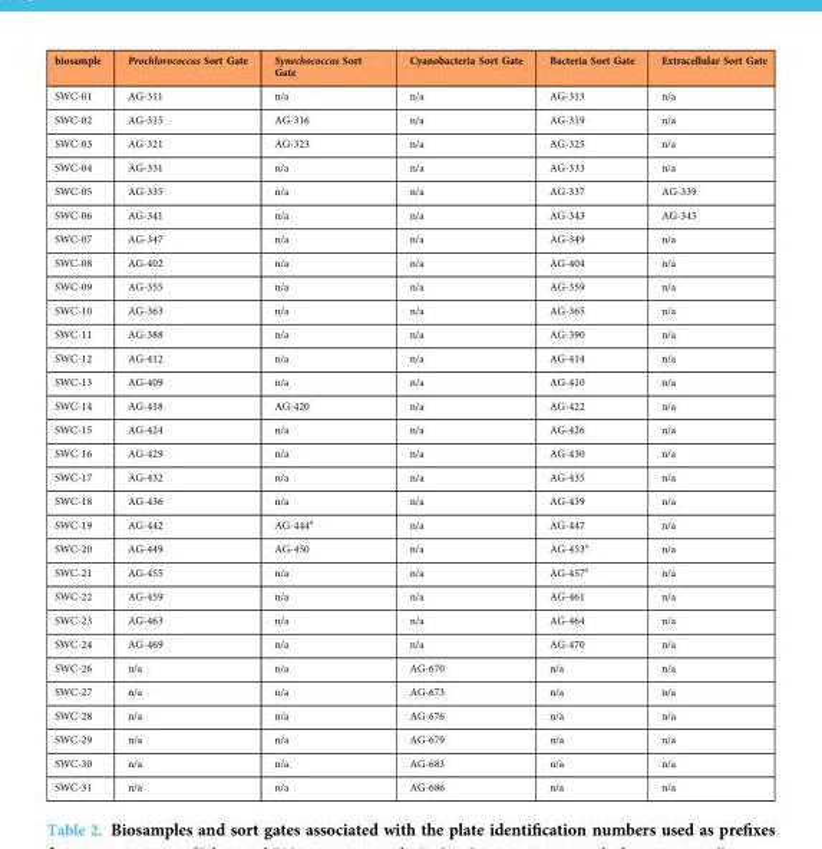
<table><thead><tr><td>biosample</td><td>Prochlorococcus Sort Gate</td><td>Synechococcus Sort Gate</td><td>Cyanobacteria Sort Gate</td><td>Bacteria Sort Gate</td><td>Extracellular Sort Gate</td></tr></thead><tbody><tr><td>SWC-01</td><td>AG-311</td><td>n/a</td><td>n/a</td><td>AG-313</td><td>n/a</td></tr><tr><td>SWC-02</td><td>AG-315</td><td>AG-316</td><td>n/a</td><td>AG-319</td><td>n/a</td></tr><tr><td>SWC-03</td><td>AG-321</td><td>AG-323</td><td>n/a</td><td>AG-325</td><td>n/a</td></tr><tr><td>SWC-04</td><td>AG-331</td><td>n/a</td><td>n/a</td><td>AG-333</td><td>n/a</td></tr><tr><td>SWC-05</td><td>AG-335</td><td>n/a</td><td>n/a</td><td>AG-337</td><td>AG-339</td></tr><tr><td>SWC-06</td><td>AG-341</td><td>n/a</td><td>n/a</td><td>AG-343</td><td>AG-345</td></tr><tr><td>SWC-07</td><td>AG-347</td><td>n/a</td><td>n/a</td><td>AG-349</td><td>n/a</td></tr><tr><td>SWC-08</td><td>AG-402</td><td>n/a</td><td>n/a</td><td>AG-404</td><td>n/a</td></tr><tr><td>SWC-09</td><td>AG-355</td><td>n/a</td><td>n/a</td><td>AG-359</td><td>n/a</td></tr><tr><td>SWC-10</td><td>AG-363</td><td>n/a</td><td>n/a</td><td>AG-365</td><td>n/a</td></tr><tr><td>SWC-11</td><td>AG-388</td><td>n/a</td><td>n/a</td><td>AG-390</td><td>n/a</td></tr><tr><td>SWC-12</td><td>AG-412</td><td>n/a</td><td>n/a</td><td>AG-414</td><td>n/a</td></tr><tr><td>SWC-13</td><td>AG-409</td><td>n/a</td><td>n/a</td><td>AG-410</td><td>n/a</td></tr><tr><td>SWC-14</td><td>AG-418</td><td>AG-420</td><td>n/a</td><td>AG-422</td><td>n/a</td></tr><tr><td>SWC-15</td><td>AG-424</td><td>n/a</td><td>n/a</td><td>AG-426</td><td>n/a</td></tr><tr><td>SWC-16</td><td>AG-429</td><td>n/a</td><td>n/a</td><td>AG-430</td><td>n/a</td></tr><tr><td>SWC-17</td><td>AG-432</td><td>n/a</td><td>n/a</td><td>AG-435</td><td>n/a</td></tr><tr><td>SWC-18</td><td>AG-436</td><td>n/a</td><td>n/a</td><td>AG-439</td><td>n/a</td></tr><tr><td>SWC-19</td><td>AG-442</td><td>AG-444<sup>a</sup></td><td>n/a</td><td>AG-447</td><td>n/a</td></tr><tr><td>SWC-20</td><td>AG-449</td><td>AG-450</td><td>n/a</td><td>AG-453<sup>a</sup></td><td>n/a</td></tr><tr><td>SWC-21</td><td>AG-455</td><td>n/a</td><td>n/a</td><td>AG-457<sup>a</sup></td><td>n/a</td></tr><tr><td>SWC-22</td><td>AG-459</td><td>n/a</td><td>n/a</td><td>AG-461</td><td>n/a</td></tr><tr><td>SWC-23</td><td>AG-463</td><td>n/a</td><td>n/a</td><td>AG-464</td><td>n/a</td></tr><tr><td>SWC-24</td><td>AG-469</td><td>n/a</td><td>n/a</td><td>AG-470</td><td>n/a</td></tr><tr><td>SWC-26</td><td>n/a</td><td>n/a</td><td>AG-670</td><td>n/a</td><td>n/a</td></tr><tr><td>SWC-27</td><td>n/a</td><td>n/a</td><td>AG-673</td><td>n/a</td><td>n/a</td></tr><tr><td>SWC-28</td><td>n/a</td><td>n/a</td><td>AG-676</td><td>n/a</td><td>n/a</td></tr><tr><td>SWC-29</td><td>n/a</td><td>n/a</td><td>AG-679</td><td>n/a</td><td>n/a</td></tr><tr><td>SWC-30</td><td>n/a</td><td>n/a</td><td>AG-683</td><td>n/a</td><td>n/a</td></tr><tr><td>SWC-31</td><td>n/a</td><td>n/a</td><td>AG-686</td><td>n/a</td><td>n/a</td></tr></tbody></table>